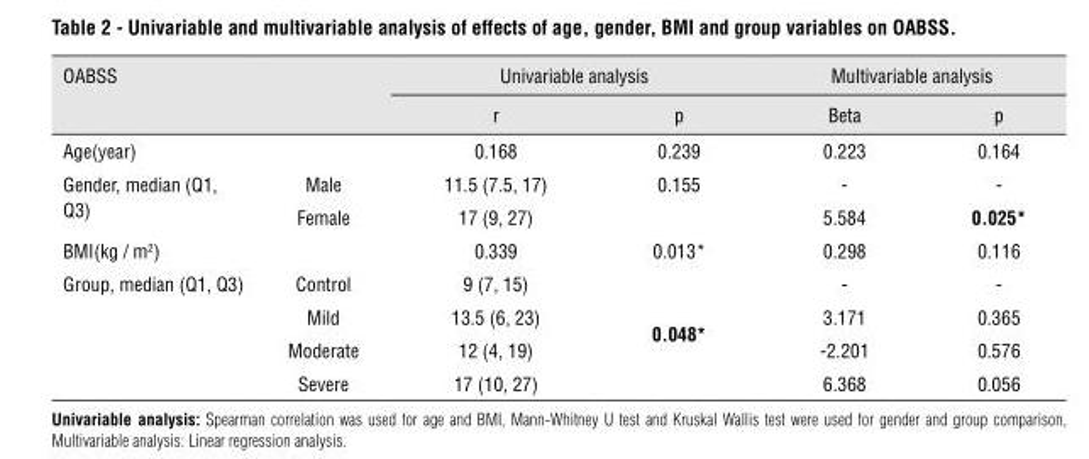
<table><thead><tr><td rowspan="2">OABSS</td><td rowspan="2"></td><td colspan="2">Univariable analysis</td><td colspan="2">Multivariable analysis</td></tr><tr><td>r</td><td>p</td><td>Beta</td><td>p</td></tr></thead><tbody><tr><td>Age(year)</td><td></td><td>0.168</td><td>0.239</td><td>0.223</td><td>0.164</td></tr><tr><td rowspan="2">Gender, median (Q1, Q3)</td><td>Male</td><td>11.5 (7.5, 17)</td><td>0.155</td><td>-</td><td>-</td></tr><tr><td>Female</td><td>17 (9, 27)</td><td></td><td>5.584</td><td>0.025*</td></tr><tr><td>BMI(kg / m<sup>2</sup>)</td><td></td><td>0.339</td><td>0.013*</td><td>0.298</td><td>0.116</td></tr><tr><td rowspan="4">Group, median (Q1, Q3)</td><td>Control</td><td>9 (7, 15)</td><td rowspan="4">0.048*</td><td>-</td><td>-</td></tr><tr><td>Mild</td><td>13.5 (6, 23)</td><td>3.171</td><td>0.365</td></tr><tr><td>Moderate</td><td>12 (4, 19)</td><td>-2.201</td><td>0.576</td></tr><tr><td>Severe</td><td>17 (10, 27)</td><td>6.368</td><td>0.056</td></tr></tbody></table>